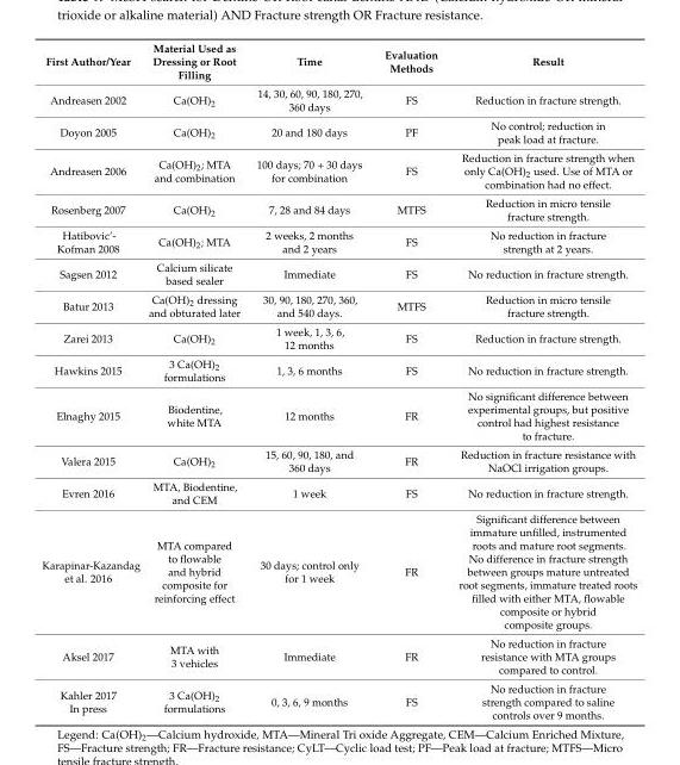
<table><thead><tr><td>First Author/Year</td><td>Material Used as Dressing or Root Filling</td><td>Time</td><td>Evaluation Methods</td><td>Result</td></tr></thead><tbody><tr><td>Andreasen 2002</td><td>Ca(OH)<sub>2</sub></td><td>14, 30, 60, 90, 180, 270, 360 days</td><td>FS</td><td>Reduction in fracture strength.</td></tr><tr><td>Doyon 2005</td><td>Ca(OH)<sub>2</sub></td><td>20 and 180 days</td><td>PF</td><td>No control; reduction in peak load at fracture.</td></tr><tr><td>Andreasen 2006</td><td>Ca(OH)<sub>2</sub>; MTA and combination</td><td>100 days; 70 + 30 days for combination</td><td>FS</td><td>Reduction in fracture strength when only Ca(OH)<sub>2</sub> used. Use of MTA or combination had no effect.</td></tr><tr><td>Rosenberg 2007</td><td>Ca(OH)<sub>2</sub></td><td>7, 28 and 84 days</td><td>MTFS</td><td>Reduction in micro tensile fracture strength.</td></tr><tr><td>Hatibovic’- Kofman 2008</td><td>Ca(OH)<sub>2</sub>; MTA</td><td>2 weeks, 2 months and 2 years</td><td>FS</td><td>No reduction in fracture strength at 2 years.</td></tr><tr><td>Sagsen 2012</td><td>Calcium silicate based sealer</td><td>Immediate</td><td>FS</td><td>No reduction in fracture strength.</td></tr><tr><td>Batur 2013</td><td>Ca(OH)<sub>2</sub> dressing and obturated later</td><td>30, 90, 180, 270, 360, and 540 days.</td><td>MTFS</td><td>Reduction in micro tensile fracture strength.</td></tr><tr><td>Zarei 2013</td><td>Ca(OH)<sub>2</sub></td><td>1 week, 1, 3, 6, 12 months</td><td>FS</td><td>Reduction in fracture strength.</td></tr><tr><td>Hawkins 2015</td><td>3 Ca(OH)<sub>2</sub> formulations</td><td>1, 3, 6 months</td><td>FS</td><td>No reduction in fracture strength.</td></tr><tr><td>Elnaghy 2015</td><td>Biodentine, white MTA</td><td>12 months</td><td>FR</td><td>No significant difference between experimental groups, but positive control had highest resistance to fracture.</td></tr><tr><td>Valera 2015</td><td>Ca(OH)<sub>2</sub></td><td>15, 60, 90, 180, and 360 days</td><td>FR</td><td>Reduction in fracture resistance with NaOCl irrigation groups.</td></tr><tr><td>Evren 2016</td><td>MTA, Biodentine, and CEM</td><td>1 week</td><td>FS</td><td>No reduction in fracture strength.</td></tr><tr><td>Karapinar-Kazandag et al. 2016</td><td>MTA compared to flowable and hybrid composite for reinforcing effect</td><td>30 days; control only for 1 week</td><td>FR</td><td>Significant difference between immature unfilled, instrumented roots and mature root segments. No difference in fracture strength between groups mature untreated root segments, immature treated roots filled with either MTA, flowable composite or hybrid composite groups.</td></tr><tr><td>Aksel 2017</td><td>MTA with 3 vehicles</td><td>Immediate</td><td>FR</td><td>No reduction in fracture resistance with MTA groups compared to control.</td></tr><tr><td>Kahler 2017 In press</td><td>3 Ca(OH)<sub>2</sub> formulations</td><td>0, 3, 6, 9 months</td><td>FS</td><td>No reduction in fracture strength compared to saline controls over 9 months.</td></tr></tbody></table>